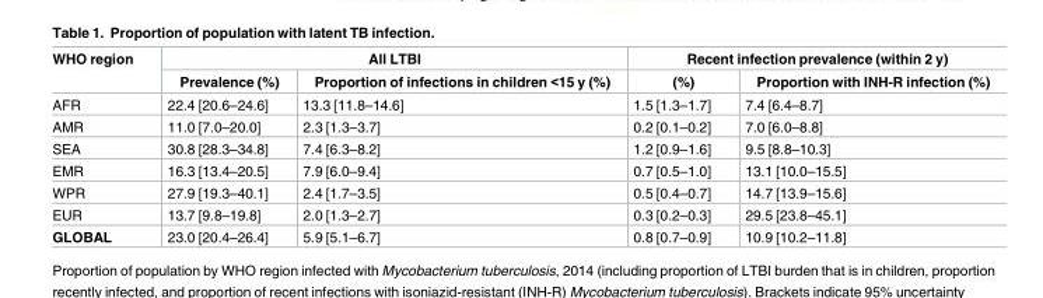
<table><thead><tr><td rowspan="2">WHO region</td><td colspan="2">All LTBI</td><td colspan="2">Recent infection prevalence (within 2 y)</td></tr><tr><td>Prevalence (%)</td><td>Proportion of infections in children &lt;15 y (%)</td><td>(%)</td><td>Proportion with INH-R infection (%)</td></tr></thead><tbody><tr><td>AFR</td><td>22.4 [20.6–24.6]</td><td>13.3 [11.8–14.6]</td><td>1.5 [1.3–1.7]</td><td>7.4 [6.4–8.7]</td></tr><tr><td>AMR</td><td>11.0 [7.0–20.0]</td><td>2.3 [1.3–3.7]</td><td>0.2 [0.1–0.2]</td><td>7.0 [6.0–8.8]</td></tr><tr><td>SEA</td><td>30.8 [28.3–34.8]</td><td>7.4 [6.3–8.2]</td><td>1.2 [0.9–1.6]</td><td>9.5 [8.8–10.3]</td></tr><tr><td>EMR</td><td>16.3 [13.4–20.5]</td><td>7.9 [6.0–9.4]</td><td>0.7 [0.5–1.0]</td><td>13.1 [10.0–15.5]</td></tr><tr><td>WPR</td><td>27.9 [19.3–40.1]</td><td>2.4 [1.7–3.5]</td><td>0.5 [0.4–0.7]</td><td>14.7 [13.9–15.6]</td></tr><tr><td>EUR</td><td>13.7 [9.8–19.8]</td><td>2.0 [1.3–2.7]</td><td>0.3 [0.2–0.3]</td><td>29.5 [23.8–45.1]</td></tr><tr><td>GLOBAL</td><td>23.0 [20.4–26.4]</td><td>5.9 [5.1–6.7]</td><td>0.8 [0.7–0.9]</td><td>10.9 [10.2–11.8]</td></tr></tbody></table>